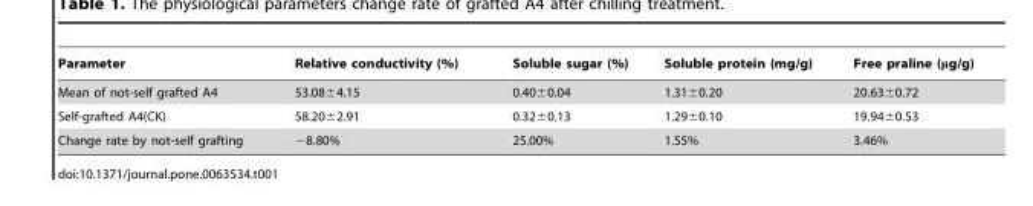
<table><thead><tr><td>Parameter</td><td>Relative conductivity (%)</td><td>Soluble sugar (%)</td><td>Soluble protein (mg/g)</td><td>Free praline (μg/g)</td></tr></thead><tbody><tr><td>Mean of not-self grafted A4</td><td>53.08±4.15</td><td>0.40±0.04</td><td>1.31±0.20</td><td>20.63±0.72</td></tr><tr><td>Self-grafted A4(CK)</td><td>58.20±2.91</td><td>0.32±0.13</td><td>1.29±0.10</td><td>19.94±0.53</td></tr><tr><td>Change rate by not-self grafting</td><td>−8.80%</td><td>25.00%</td><td>1.55%</td><td>3.46%</td></tr></tbody></table>